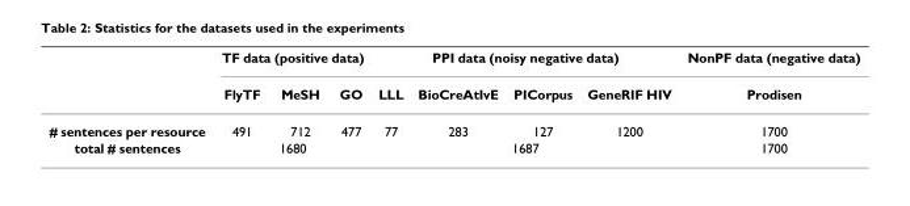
<table><thead><tr><td rowspan="2"></td><td colspan="3">TF data (positive data)</td><td colspan="4">PPI data (noisy negative data)</td><td rowspan="2">NonPF data (negative data) Prodisen</td></tr><tr><td>FlyTF</td><td>MeSH</td><td>GO</td><td>LLL</td><td>BioCreAtIvE</td><td>PICorpus</td><td>GeneRIF HIV</td></tr></thead><tbody><tr><td># sentences per resource</td><td>491</td><td>712</td><td>477</td><td>77</td><td>283</td><td>127</td><td>1200</td><td>1700</td></tr><tr><td>total # sentences</td><td colspan="3">1680</td><td colspan="4">1687</td><td>1700</td></tr></tbody></table>